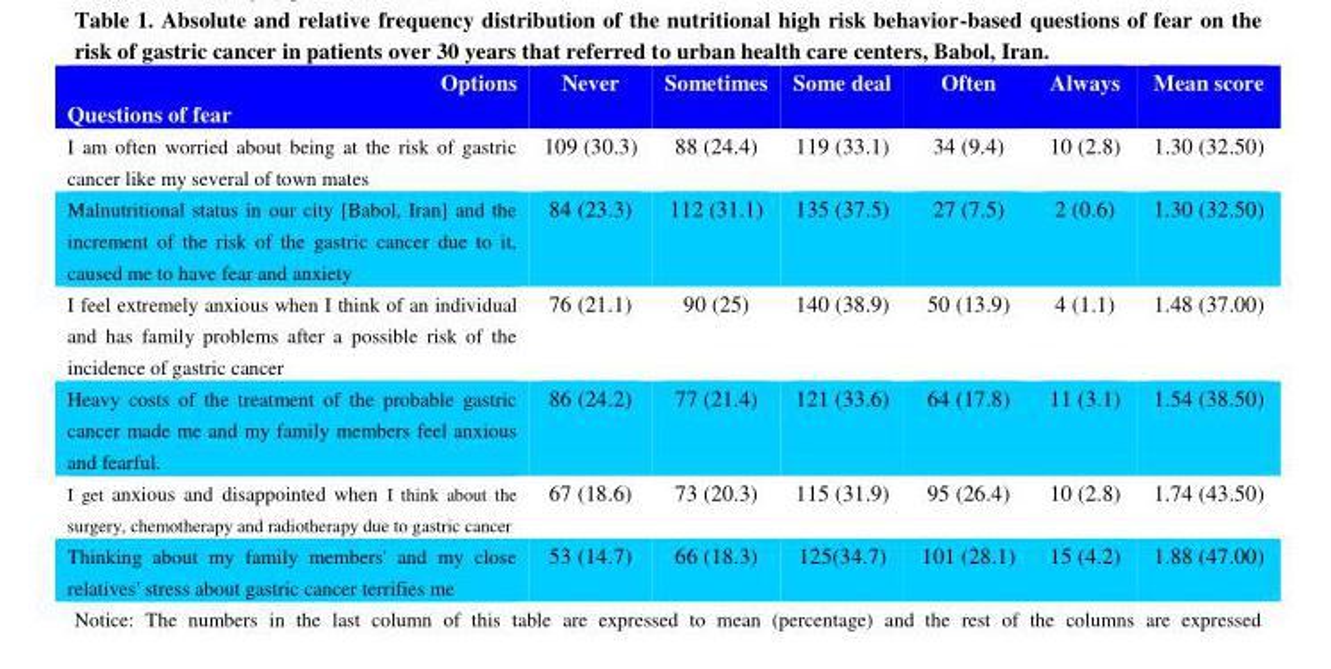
<table><thead><tr><td>Options Questions of fear</td><td>Never</td><td>Sometimes</td><td>Some deal</td><td>Often</td><td>Always</td><td>Mean score</td></tr></thead><tbody><tr><td>I am often worried about being at the risk of gastric cancer like my several of town mates</td><td>109 (30.3)</td><td>88 (24.4)</td><td>119 (33.1)</td><td>34 (9.4)</td><td>10 (2.8)</td><td>1.30 (32.50)</td></tr><tr><td>Malnutritional status in our city [Babol, Iran] and the increment of the risk of the gastric cancer due to it, caused me to have fear and anxiety</td><td>84 (23.3)</td><td>112 (31.1)</td><td>135 (37.5)</td><td>27 (7.5)</td><td>2 (0.6)</td><td>1.30 (32.50)</td></tr><tr><td>I feel extremely anxious when I think of an individual and has family problems after a possible risk of the incidence of gastric cancer</td><td>76 (21.1)</td><td>90 (25)</td><td>140 (38.9)</td><td>50 (13.9)</td><td>4 (1.1)</td><td>1.48 (37.00)</td></tr><tr><td>Heavy costs of the treatment of the probable gastric cancer made me and my family members feel anxious and fearful.</td><td>86 (24.2)</td><td>77 (21.4)</td><td>121 (33.6)</td><td>64 (17.8)</td><td>11 (3.1)</td><td>1.54 (38.50)</td></tr><tr><td>I get anxious and disappointed when I think about the surgery, chemotherapy and radiotherapy due to gastric cancer</td><td>67 (18.6)</td><td>73 (20.3)</td><td>115 (31.9)</td><td>95 (26.4)</td><td>10 (2.8)</td><td>1.74 (43.50)</td></tr><tr><td>Thinking about my family members&#x27; and my close relatives&#x27; stress about gastric cancer terrifies me</td><td>53 (14.7)</td><td>66 (18.3)</td><td>125(34.7)</td><td>101 (28.1)</td><td>15 (4.2)</td><td>1.88 (47.00)</td></tr></tbody></table>